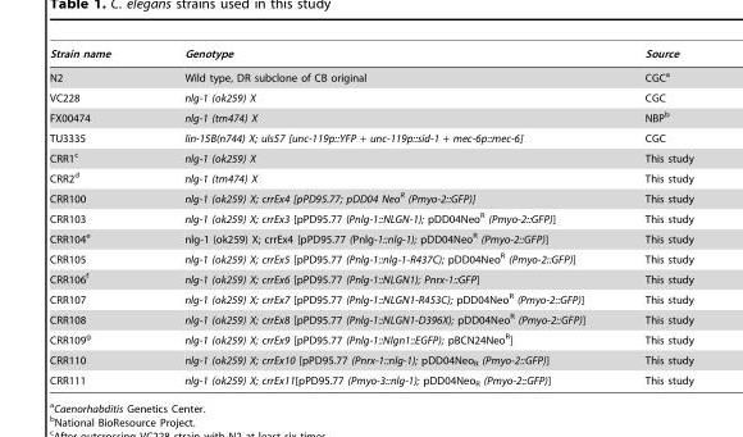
<table><thead><tr><td>Strain name</td><td>Genotype</td><td>Source</td></tr></thead><tbody><tr><td>N2</td><td>Wild type, DR subclone of CB original</td><td>CGC<sup>a</sup></td></tr><tr><td>VC228</td><td>nlg-1 (ok259) X</td><td>CGC</td></tr><tr><td>FX00474</td><td>nlg-1 (tm474) X</td><td>NBP<sup>b</sup></td></tr><tr><td>TU3335</td><td>lin-15B(n744) X; uIs57 [unc-119p::YFP + unc-119p::sid-1 + mec-6p::mec-6]</td><td>CGC</td></tr><tr><td>CRR1<sup>c</sup></td><td>nlg-1 (ok259) X</td><td>This study</td></tr><tr><td>CRR2<sup>d</sup></td><td>nlg-1 (tm474) X</td><td>This study</td></tr><tr><td>CRR100</td><td>nlg-1 (ok259) X; crrEx4 [pPD95.77; pDD04 Neo<sup>R</sup> (Pmyo-2::GFP)]</td><td>This study</td></tr><tr><td>CRR103</td><td>nlg-1 (ok259) X; crrEx3 [pPD95.77 (Pnlg-1::NLGN-1); pDD04Neo<sup>R</sup> (Pmyo-2::GFP)]</td><td>This study</td></tr><tr><td>CRR104<sup>e</sup></td><td>nlg-1 (ok259) X; crrEx4 [pPD95.77 (Pnlg-1::nlg-1); pDD04Neo<sup>R</sup> (Pmyo-2::GFP)]</td><td>This study</td></tr><tr><td>CRR105</td><td>nlg-1 (ok259) X; crrEx5 [pPD95.77 (Pnlg-1::nlg-1-R437C); pDD04Neo<sup>R</sup> (Pmyo-2::GFP)]</td><td>This study</td></tr><tr><td>CRR106<sup>f</sup></td><td>nlg-1 (ok259) X; crrEx6 [pPD95.77 (Pnlg-1::NLGN1); Pnrx-1::GFP]</td><td>This study</td></tr><tr><td>CRR107</td><td>nlg-1 (ok259) X; crrEx7 [pPD95.77 (Pnlg-1::NLGN1-R453C); pDD04Neo<sup>R</sup> (Pmyo-2::GFP)]</td><td>This study</td></tr><tr><td>CRR108</td><td>nlg-1 (ok259) X; crrEx8 [pPD95.77 (Pnlg-1::NLGN1-D396X); pDD04Neo<sup>R</sup> (Pmyo-2::GFP)]</td><td>This study</td></tr><tr><td>CRR109<sup>g</sup></td><td>nlg-1 (ok259) X; crrEx9 [pPD95.77 (Pnlg-1::Nlgn1::EGFP); pBCN24Neo<sup>R</sup>]</td><td>This study</td></tr><tr><td>CRR110</td><td>nlg-1 (ok259) X; crrEx10 [pPD95.77 (Pnrx-1::nlg-1); pDD04Neo<sub>R</sub> (Pmyo-2::GFP)]</td><td>This study</td></tr><tr><td>CRR111</td><td>nlg-1 (ok259) X; crrEx11[pPD95.77 (Pmyo-3::nlg-1); pDD04Neo<sub>R</sub> (Pmyo-2::GFP)]</td><td>This study</td></tr></tbody></table>